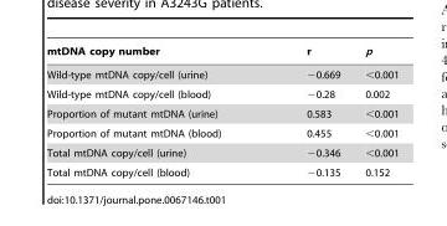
<table><thead><tr><td>mtDNA copy number</td><td>r</td><td>p</td></tr></thead><tbody><tr><td>Wild-type mtDNA copy/cell (urine)</td><td>−0.669</td><td>&lt;0.001</td></tr><tr><td>Wild-type mtDNA copy/cell (blood)</td><td>−0.28</td><td>0.002</td></tr><tr><td>Proportion of mutant mtDNA (urine)</td><td>0.583</td><td>&lt;0.001</td></tr><tr><td>Proportion of mutant mtDNA (blood)</td><td>0.455</td><td>&lt;0.001</td></tr><tr><td>Total mtDNA copy/cell (urine)</td><td>−0.346</td><td>&lt;0.001</td></tr><tr><td>Total mtDNA copy/cell (blood)</td><td>−0.135</td><td>0.152</td></tr></tbody></table>